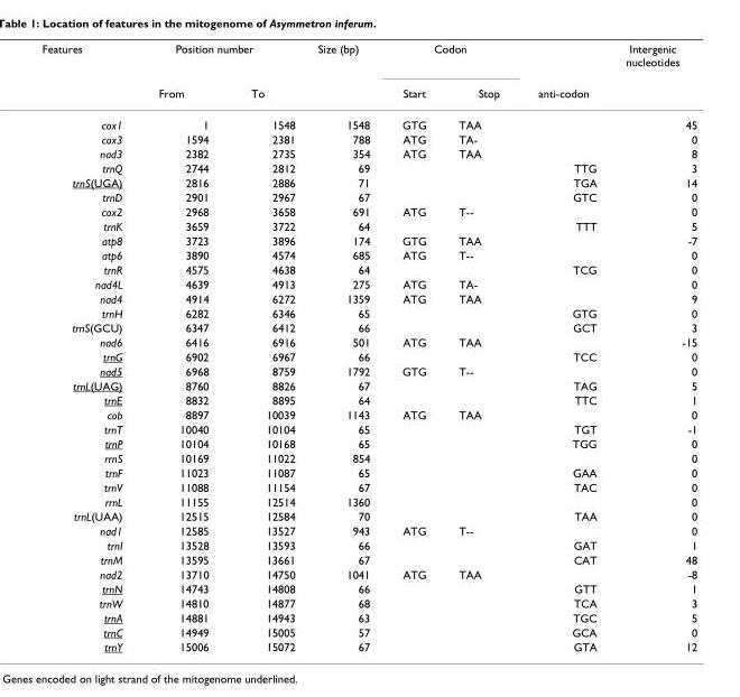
<table><thead><tr><td rowspan="2">Features</td><td colspan="2">Position number</td><td rowspan="2">Size (bp)</td><td colspan="2">Codon</td><td rowspan="2">anti-codon</td><td rowspan="2">Intergenic nucleotides</td></tr><tr><td>From</td><td>To</td><td>Start</td><td>Stop</td></tr></thead><tbody><tr><td>cox1</td><td>1</td><td>1548</td><td>1548</td><td>GTG</td><td>TAA</td><td></td><td>45</td></tr><tr><td>cox3</td><td>1594</td><td>2381</td><td>788</td><td>ATG</td><td>TA-</td><td></td><td>0</td></tr><tr><td>nad3</td><td>2382</td><td>2735</td><td>354</td><td>ATG</td><td>TAA</td><td></td><td>8</td></tr><tr><td>trnQ</td><td>2744</td><td>2812</td><td>69</td><td></td><td></td><td>TTG</td><td>3</td></tr><tr><td>trnS(UGA)</td><td>2816</td><td>2886</td><td>71</td><td></td><td></td><td>TGA</td><td>14</td></tr><tr><td>trnD</td><td>2901</td><td>2967</td><td>67</td><td></td><td></td><td>GTC</td><td>0</td></tr><tr><td>cox2</td><td>2968</td><td>3658</td><td>691</td><td>ATG</td><td>T--</td><td></td><td>0</td></tr><tr><td>trnK</td><td>3659</td><td>3722</td><td>64</td><td></td><td></td><td>TTT</td><td>5</td></tr><tr><td>atp8</td><td>3723</td><td>3896</td><td>174</td><td>GTG</td><td>TAA</td><td></td><td>-7</td></tr><tr><td>atp6</td><td>3890</td><td>4574</td><td>685</td><td>ATG</td><td>T--</td><td></td><td>0</td></tr><tr><td>trnR</td><td>4575</td><td>4638</td><td>64</td><td></td><td></td><td>TCG</td><td>0</td></tr><tr><td>nad4L</td><td>4639</td><td>4913</td><td>275</td><td>ATG</td><td>TA-</td><td></td><td>0</td></tr><tr><td>nad4</td><td>4914</td><td>6272</td><td>1359</td><td>ATG</td><td>TAA</td><td></td><td>9</td></tr><tr><td>trnH</td><td>6282</td><td>6346</td><td>65</td><td></td><td></td><td>GTG</td><td>0</td></tr><tr><td>trnS(GCU)</td><td>6347</td><td>6412</td><td>66</td><td></td><td></td><td>GCT</td><td>3</td></tr><tr><td>nad6</td><td>6416</td><td>6916</td><td>501</td><td>ATG</td><td>TAA</td><td></td><td>-15</td></tr><tr><td>trnG</td><td>6902</td><td>6967</td><td>66</td><td></td><td></td><td>TCC</td><td>0</td></tr><tr><td>nad5</td><td>6968</td><td>8759</td><td>1792</td><td>GTG</td><td>T--</td><td></td><td>0</td></tr><tr><td>trnL(UAG)</td><td>8760</td><td>8826</td><td>67</td><td></td><td></td><td>TAG</td><td>5</td></tr><tr><td>trnE</td><td>8832</td><td>8895</td><td>64</td><td></td><td></td><td>TTC</td><td>1</td></tr><tr><td>cob</td><td>8897</td><td>10039</td><td>1143</td><td>ATG</td><td>TAA</td><td></td><td>0</td></tr><tr><td>trnT</td><td>10040</td><td>10104</td><td>65</td><td></td><td></td><td>TGT</td><td>-1</td></tr><tr><td>trnP</td><td>10104</td><td>10168</td><td>65</td><td></td><td></td><td>TGG</td><td>0</td></tr><tr><td>rrnS</td><td>10169</td><td>11022</td><td>854</td><td></td><td></td><td></td><td>0</td></tr><tr><td>trnF</td><td>11023</td><td>11087</td><td>65</td><td></td><td></td><td>GAA</td><td>0</td></tr><tr><td>trnV</td><td>11088</td><td>11154</td><td>67</td><td></td><td></td><td>TAC</td><td>0</td></tr><tr><td>rrnL</td><td>11155</td><td>12514</td><td>1360</td><td></td><td></td><td></td><td>0</td></tr><tr><td>trnL(UAA)</td><td>12515</td><td>12584</td><td>70</td><td></td><td></td><td>TAA</td><td>0</td></tr><tr><td>nad1</td><td>12585</td><td>13527</td><td>943</td><td>ATG</td><td>T--</td><td></td><td>0</td></tr><tr><td>trnI</td><td>13528</td><td>13593</td><td>66</td><td></td><td></td><td>GAT</td><td>1</td></tr><tr><td>trnM</td><td>13595</td><td>13661</td><td>67</td><td></td><td></td><td>CAT</td><td>48</td></tr><tr><td>nad2</td><td>13710</td><td>14750</td><td>1041</td><td>ATG</td><td>TAA</td><td></td><td>-8</td></tr><tr><td>trnN</td><td>14743</td><td>14808</td><td>66</td><td></td><td></td><td>GTT</td><td>1</td></tr><tr><td>trnW</td><td>14810</td><td>14877</td><td>68</td><td></td><td></td><td>TCA</td><td>3</td></tr><tr><td>trnA</td><td>14881</td><td>14943</td><td>63</td><td></td><td></td><td>TGC</td><td>5</td></tr><tr><td>trnC</td><td>14949</td><td>15005</td><td>57</td><td></td><td></td><td>GCA</td><td>0</td></tr><tr><td>trnY</td><td>15006</td><td>15072</td><td>67</td><td></td><td></td><td>GTA</td><td>12</td></tr></tbody></table>